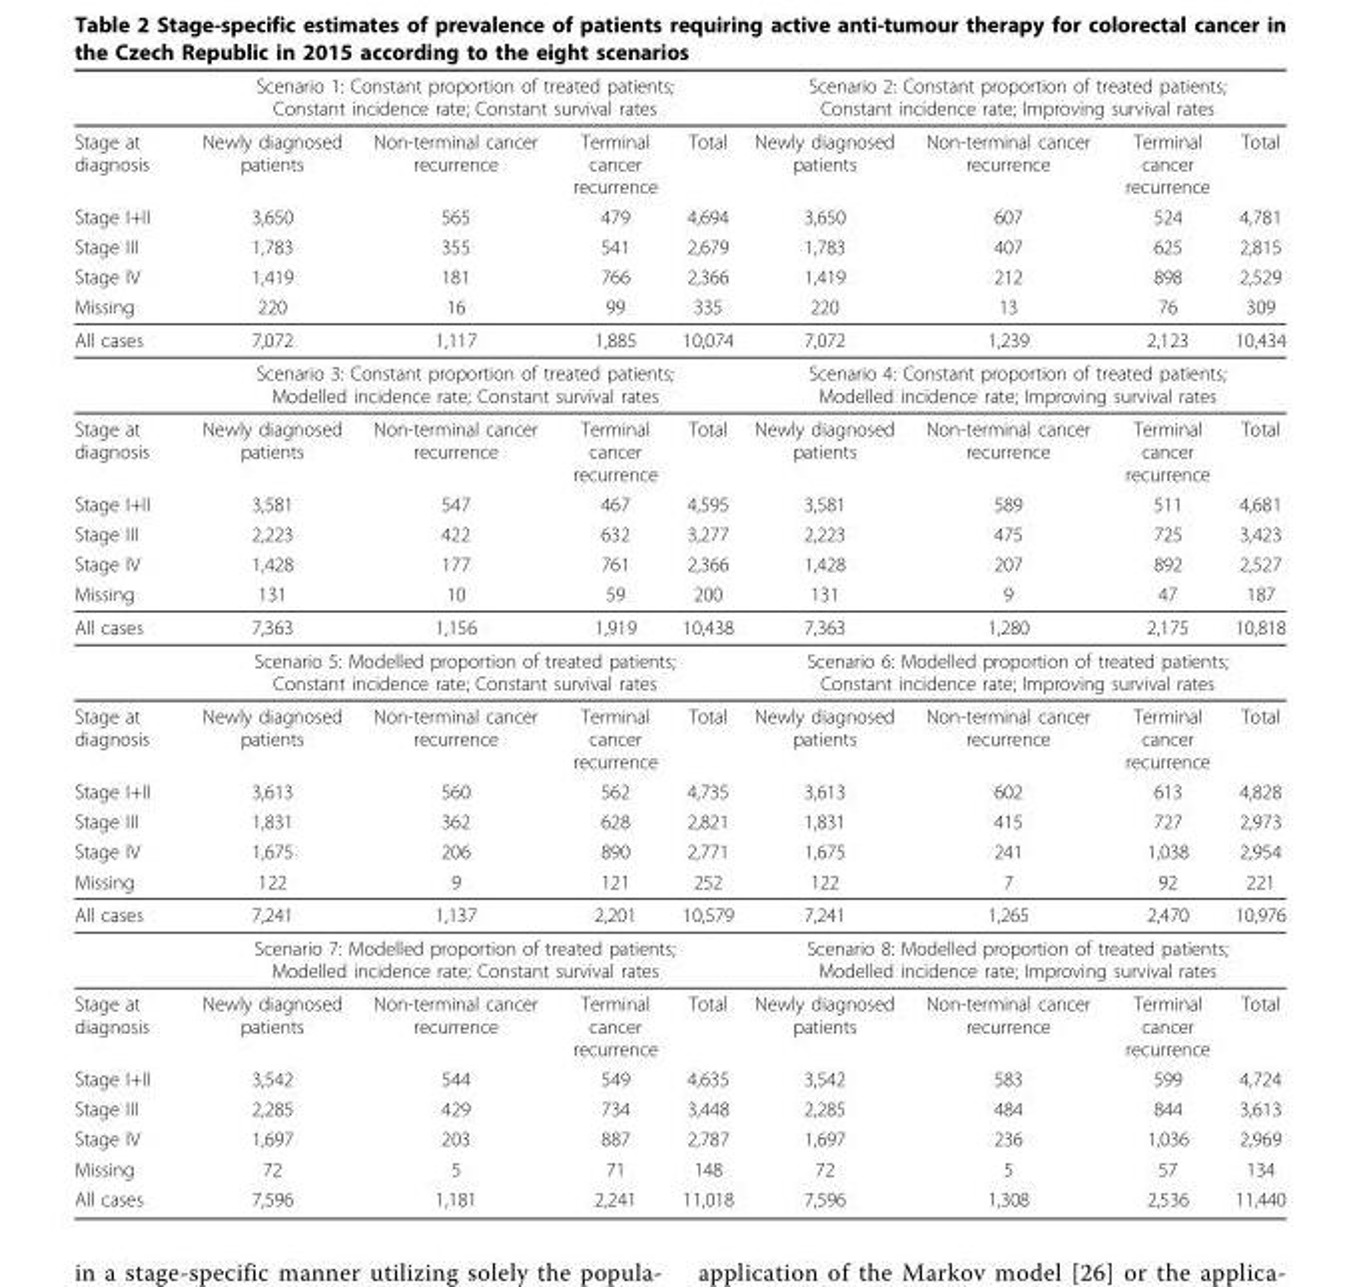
<table><thead><tr><td rowspan="2">Stage at diagnosis</td><td colspan="4">Scenario 1: Constant proportion of treated patients; Constant incidence rate; Constant survival rates</td><td colspan="4">Scenario 2: Constant proportion of treated patients; Constant incidence rate; Improving survival rates</td></tr><tr><td>Newly diagnosed patients</td><td>Non-terminal cancer recurrence</td><td>Terminal cancer recurrence</td><td>Total</td><td>Newly diagnosed patients</td><td>Non-terminal cancer recurrence</td><td>Terminal cancer recurrence</td><td>Total</td></tr></thead><tbody><tr><td>Stage I+II</td><td>3,650</td><td>565</td><td>479</td><td>4,694</td><td>3,650</td><td>607</td><td>524</td><td>4,781</td></tr><tr><td>Stage III</td><td>1,783</td><td>355</td><td>541</td><td>2,679</td><td>1,783</td><td>407</td><td>625</td><td>2,815</td></tr><tr><td>Stage IV</td><td>1,419</td><td>181</td><td>766</td><td>2,366</td><td>1,419</td><td>212</td><td>898</td><td>2,529</td></tr><tr><td>Missing</td><td>220</td><td>16</td><td>99</td><td>335</td><td>220</td><td>13</td><td>76</td><td>309</td></tr><tr><td rowspan="2">All cases</td><td>7,072</td><td>1,117</td><td>1,885</td><td>10,074</td><td>7,072</td><td>1,239</td><td>2,123</td><td>10,434</td></tr><tr><td colspan="4">Scenario 3: Constant proportion of treated patients; Modelled incidence rate; Constant survival rates</td><td colspan="4">Scenario 4: Constant proportion of treated patients; Modelled incidence rate; Improving survival rates</td></tr><tr><td>Stage at diagnosis</td><td>Newly diagnosed patients</td><td>Non-terminal cancer recurrence</td><td>Terminal cancer recurrence</td><td>Total</td><td>Newly diagnosed patients</td><td>Non-terminal cancer recurrence</td><td>Terminal cancer recurrence</td><td>Total</td></tr><tr><td>Stage I+II</td><td>3,581</td><td>547</td><td>467</td><td>4,595</td><td>3,581</td><td>589</td><td>511</td><td>4,681</td></tr><tr><td>Stage III</td><td>2,223</td><td>422</td><td>632</td><td>3,277</td><td>2,223</td><td>475</td><td>725</td><td>3,423</td></tr><tr><td>Stage IV</td><td>1,428</td><td>177</td><td>761</td><td>2,366</td><td>1,428</td><td>207</td><td>892</td><td>2,527</td></tr><tr><td>Missing</td><td>131</td><td>10</td><td>59</td><td>200</td><td>131</td><td>9</td><td>47</td><td>187</td></tr><tr><td rowspan="2">All cases</td><td>7,363</td><td>1,156</td><td>1,919</td><td>10,438</td><td>7,363</td><td>1,280</td><td>2,175</td><td>10,818</td></tr><tr><td colspan="4">Scenario 5: Modelled proportion of treated patients; Constant incidence rate; Constant survival rates</td><td colspan="4">Scenario 6: Modelled proportion of treated patients; Constant incidence rate; Improving survival rates</td></tr><tr><td>Stage at diagnosis</td><td>Newly diagnosed patients</td><td>Non-terminal cancer recurrence</td><td>Terminal cancer recurrence</td><td>Total</td><td>Newly diagnosed patients</td><td>Non-terminal cancer recurrence</td><td>Terminal cancer recurrence</td><td>Total</td></tr><tr><td>Stage I+II</td><td>3,613</td><td>560</td><td>562</td><td>4,735</td><td>3,613</td><td>602</td><td>613</td><td>4,828</td></tr><tr><td>Stage III</td><td>1,831</td><td>362</td><td>628</td><td>2,821</td><td>1,831</td><td>415</td><td>727</td><td>2,973</td></tr><tr><td>Stage IV</td><td>1,675</td><td>206</td><td>890</td><td>2,771</td><td>1,675</td><td>241</td><td>1,038</td><td>2,954</td></tr><tr><td>Missing</td><td>122</td><td>9</td><td>121</td><td>252</td><td>122</td><td>7</td><td>92</td><td>221</td></tr><tr><td rowspan="2">All cases</td><td>7,241</td><td>1,137</td><td>2,201</td><td>10,579</td><td>7,241</td><td>1,265</td><td>2,470</td><td>10,976</td></tr><tr><td colspan="4">Scenario 7: Modelled proportion of treated patients; Modelled incidence rate; Constant survival rates</td><td colspan="4">Scenario 8: Modelled proportion of treated patients; Modelled incidence rate; Improving survival rates</td></tr><tr><td>Stage at diagnosis</td><td>Newly diagnosed patients</td><td>Non-terminal cancer recurrence</td><td>Terminal cancer recurrence</td><td>Total</td><td>Newly diagnosed patients</td><td>Non-terminal cancer recurrence</td><td>Terminal cancer recurrence</td><td>Total</td></tr><tr><td>Stage I+II</td><td>3,542</td><td>544</td><td>549</td><td>4,635</td><td>3,542</td><td>583</td><td>599</td><td>4,724</td></tr><tr><td>Stage III</td><td>2,285</td><td>429</td><td>734</td><td>3,448</td><td>2,285</td><td>484</td><td>844</td><td>3,613</td></tr><tr><td>Stage IV</td><td>1,697</td><td>203</td><td>887</td><td>2,787</td><td>1,697</td><td>236</td><td>1,036</td><td>2,969</td></tr><tr><td>Missing</td><td>72</td><td>5</td><td>71</td><td>148</td><td>72</td><td>5</td><td>57</td><td>134</td></tr><tr><td>All cases</td><td>7,596</td><td>1,181</td><td>2,241</td><td>11,018</td><td>7,596</td><td>1,308</td><td>2,536</td><td>11,440</td></tr></tbody></table>